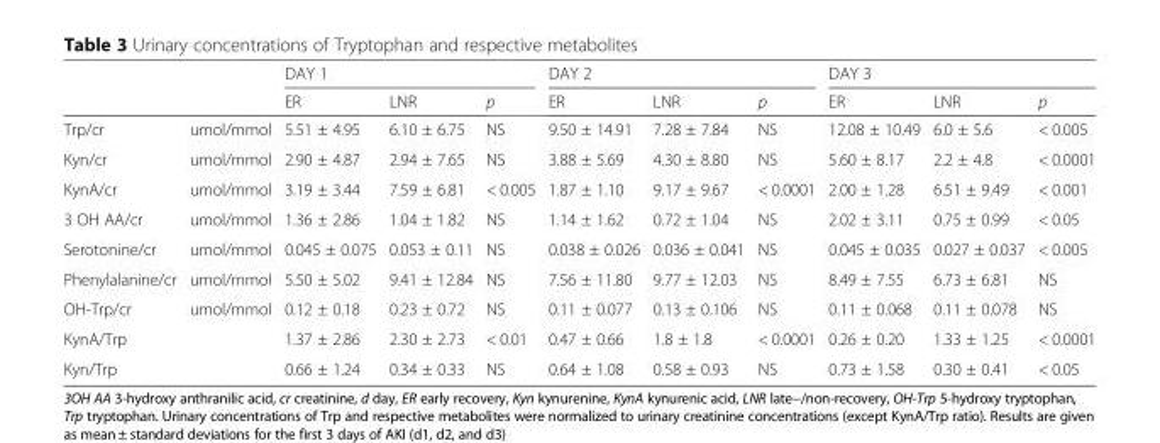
<table><thead><tr><td rowspan="2"></td><td rowspan="2"></td><td colspan="3">DAY 1</td><td colspan="3">DAY 2</td><td colspan="3">DAY 3</td></tr><tr><td>ER</td><td>LNR</td><td>p</td><td>ER</td><td>LNR</td><td>p</td><td>ER</td><td>LNR</td><td>p</td></tr></thead><tbody><tr><td>Trp/cr</td><td>umol/mmol</td><td>5.51 ± 4.95</td><td>6.10 ± 6.75</td><td>NS</td><td>9.50 ± 14.91</td><td>7.28 ± 7.84</td><td>NS</td><td>12.08 ± 10.49</td><td>6.0 ± 5.6</td><td>&lt; 0.005</td></tr><tr><td>Kyn/cr</td><td>umol/mmol</td><td>2.90 ± 4.87</td><td>2.94 ± 7.65</td><td>NS</td><td>3.88 ± 5.69</td><td>4.30 ± 8.80</td><td>NS</td><td>5.60 ± 8.17</td><td>2.2 ± 4.8</td><td>&lt; 0.0001</td></tr><tr><td>KynA/cr</td><td>umol/mmol</td><td>3.19 ± 3.44</td><td>7.59 ± 6.81</td><td>&lt; 0.005</td><td>1.87 ± 1.10</td><td>9.17 ± 9.67</td><td>&lt; 0.0001</td><td>2.00 ± 1.28</td><td>6.51 ± 9.49</td><td>&lt; 0.001</td></tr><tr><td>3 OH AA/cr</td><td>umol/mmol</td><td>1.36 ± 2.86</td><td>1.04 ± 1.82</td><td>NS</td><td>1.14 ± 1.62</td><td>0.72 ± 1.04</td><td>NS</td><td>2.02 ± 3.11</td><td>0.75 ± 0.99</td><td>&lt; 0.05</td></tr><tr><td>Serotonine/cr</td><td>umol/mmol</td><td>0.045 ± 0.075</td><td>0.053 ± 0.11</td><td>NS</td><td>0.038 ± 0.026</td><td>0.036 ± 0.041</td><td>NS</td><td>0.045 ± 0.035</td><td>0.027 ± 0.037</td><td>&lt; 0.005</td></tr><tr><td>Phenylalanine/cr</td><td>umol/mmol</td><td>5.50 ± 5.02</td><td>9.41 ± 12.84</td><td>NS</td><td>7.56 ± 11.80</td><td>9.77 ± 12.03</td><td>NS</td><td>8.49 ± 7.55</td><td>6.73 ± 6.81</td><td>NS</td></tr><tr><td>OH-Trp/cr</td><td>umol/mmol</td><td>0.12 ± 0.18</td><td>0.23 ± 0.72</td><td>NS</td><td>0.11 ± 0.077</td><td>0.13 ± 0.106</td><td>NS</td><td>0.11 ± 0.068</td><td>0.11 ± 0.078</td><td>NS</td></tr><tr><td>KynA/Trp</td><td></td><td>1.37 ± 2.86</td><td>2.30 ± 2.73</td><td>&lt; 0.01</td><td>0.47 ± 0.66</td><td>1.8 ± 1.8</td><td>&lt; 0.0001</td><td>0.26 ± 0.20</td><td>1.33 ± 1.25</td><td>&lt; 0.0001</td></tr><tr><td>Kyn/Trp</td><td></td><td>0.66 ± 1.24</td><td>0.34 ± 0.33</td><td>NS</td><td>0.64 ± 1.08</td><td>0.58 ± 0.93</td><td>NS</td><td>0.73 ± 1.58</td><td>0.30 ± 0.41</td><td>&lt; 0.05</td></tr></tbody></table>